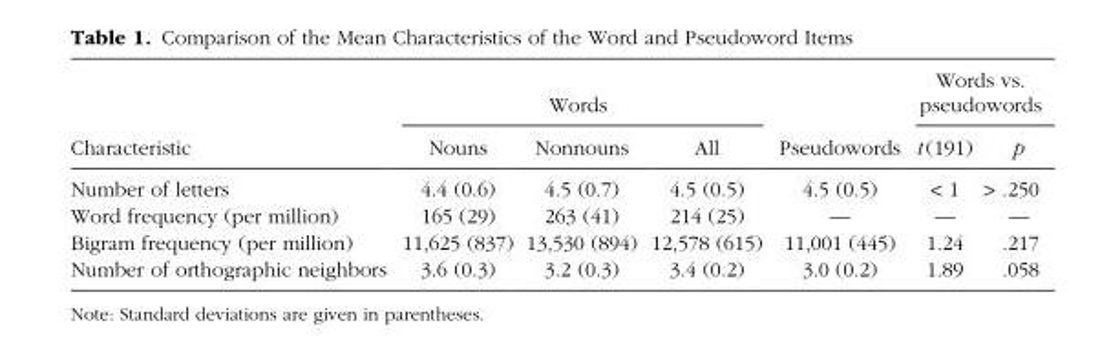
<table><thead><tr><td rowspan="2">Characteristic</td><td colspan="3">Words</td><td rowspan="2">Pseudowords</td><td colspan="2">Words vs. pseudowords</td></tr><tr><td>Nouns</td><td>Nonnouns</td><td>All</td><td>t (191)</td><td>p</td></tr></thead><tbody><tr><td>Number of letters</td><td>4.4 (0.6)</td><td>4.5 (0.7)</td><td>4.5 (0.5)</td><td>4.5 (0.5)</td><td>&lt; 1</td><td>&gt; .250</td></tr><tr><td>Word frequency (per million)</td><td>165 (29)</td><td>263 (41)</td><td>214 (25)</td><td>—</td><td>—</td><td>—</td></tr><tr><td>Bigram frequency (per million)</td><td>11,625 (837)</td><td>13,530 (894)</td><td>12,578 (615)</td><td>11,001 (445)</td><td>1.24</td><td>.217</td></tr><tr><td>Number of orthographic neighbors</td><td>3.6 (0.3)</td><td>3.2 (0.3)</td><td>3.4 (0.2)</td><td>3.0 (0.2)</td><td>1.89</td><td>.058</td></tr></tbody></table>